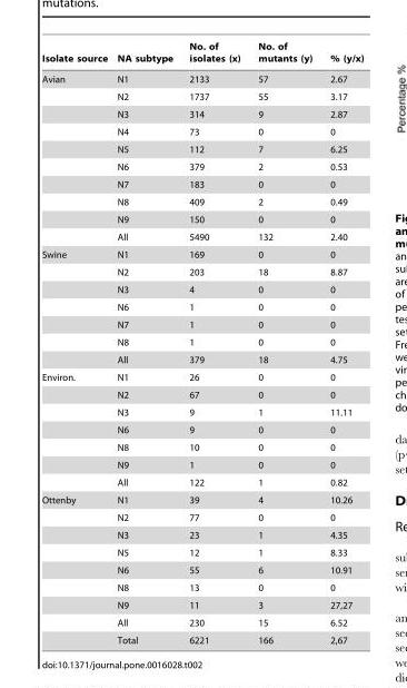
<table><thead><tr><td>Isolate source</td><td>NA subtype</td><td>No. of isolates (x)</td><td>No. of mutants (y)</td><td>% (y/x)</td></tr></thead><tbody><tr><td rowspan="10">Avian</td><td>N1</td><td>2133</td><td>57</td><td>2.67</td></tr><tr><td>N2</td><td>1737</td><td>55</td><td>3.17</td></tr><tr><td>N3</td><td>314</td><td>9</td><td>2.87</td></tr><tr><td>N4</td><td>73</td><td>0</td><td>0</td></tr><tr><td>N5</td><td>112</td><td>7</td><td>6.25</td></tr><tr><td>N6</td><td>379</td><td>2</td><td>0.53</td></tr><tr><td>N7</td><td>183</td><td>0</td><td>0</td></tr><tr><td>N8</td><td>409</td><td>2</td><td>0.49</td></tr><tr><td>N9</td><td>150</td><td>0</td><td>0</td></tr><tr><td>All</td><td>5490</td><td>132</td><td>2.40</td></tr><tr><td rowspan="7">Swine</td><td>N1</td><td>169</td><td>0</td><td>0</td></tr><tr><td>N2</td><td>203</td><td>18</td><td>8.87</td></tr><tr><td>N3</td><td>4</td><td>0</td><td>0</td></tr><tr><td>N6</td><td>1</td><td>0</td><td>0</td></tr><tr><td>N7</td><td>1</td><td>0</td><td>0</td></tr><tr><td>N8</td><td>1</td><td>0</td><td>0</td></tr><tr><td>All</td><td>379</td><td>18</td><td>4.75</td></tr><tr><td rowspan="7">Environ.</td><td>N1</td><td>26</td><td>0</td><td>0</td></tr><tr><td>N2</td><td>67</td><td>0</td><td>0</td></tr><tr><td>N3</td><td>9</td><td>1</td><td>11.11</td></tr><tr><td>N6</td><td>9</td><td>0</td><td>0</td></tr><tr><td>N8</td><td>10</td><td>0</td><td>0</td></tr><tr><td>N9</td><td>1</td><td>0</td><td>0</td></tr><tr><td>All</td><td>122</td><td>1</td><td>0.82</td></tr><tr><td rowspan="9">Ottenby</td><td>N1</td><td>39</td><td>4</td><td>10.26</td></tr><tr><td>N2</td><td>77</td><td>0</td><td>0</td></tr><tr><td>N3</td><td>23</td><td>1</td><td>4.35</td></tr><tr><td>N5</td><td>12</td><td>1</td><td>8.33</td></tr><tr><td>N6</td><td>55</td><td>6</td><td>10.91</td></tr><tr><td>N8</td><td>13</td><td>0</td><td>0</td></tr><tr><td>N9</td><td>11</td><td>3</td><td>27,27</td></tr><tr><td>All</td><td>230</td><td>15</td><td>6.52</td></tr><tr><td>Total</td><td>6221</td><td>166</td><td>2,67</td></tr></tbody></table>